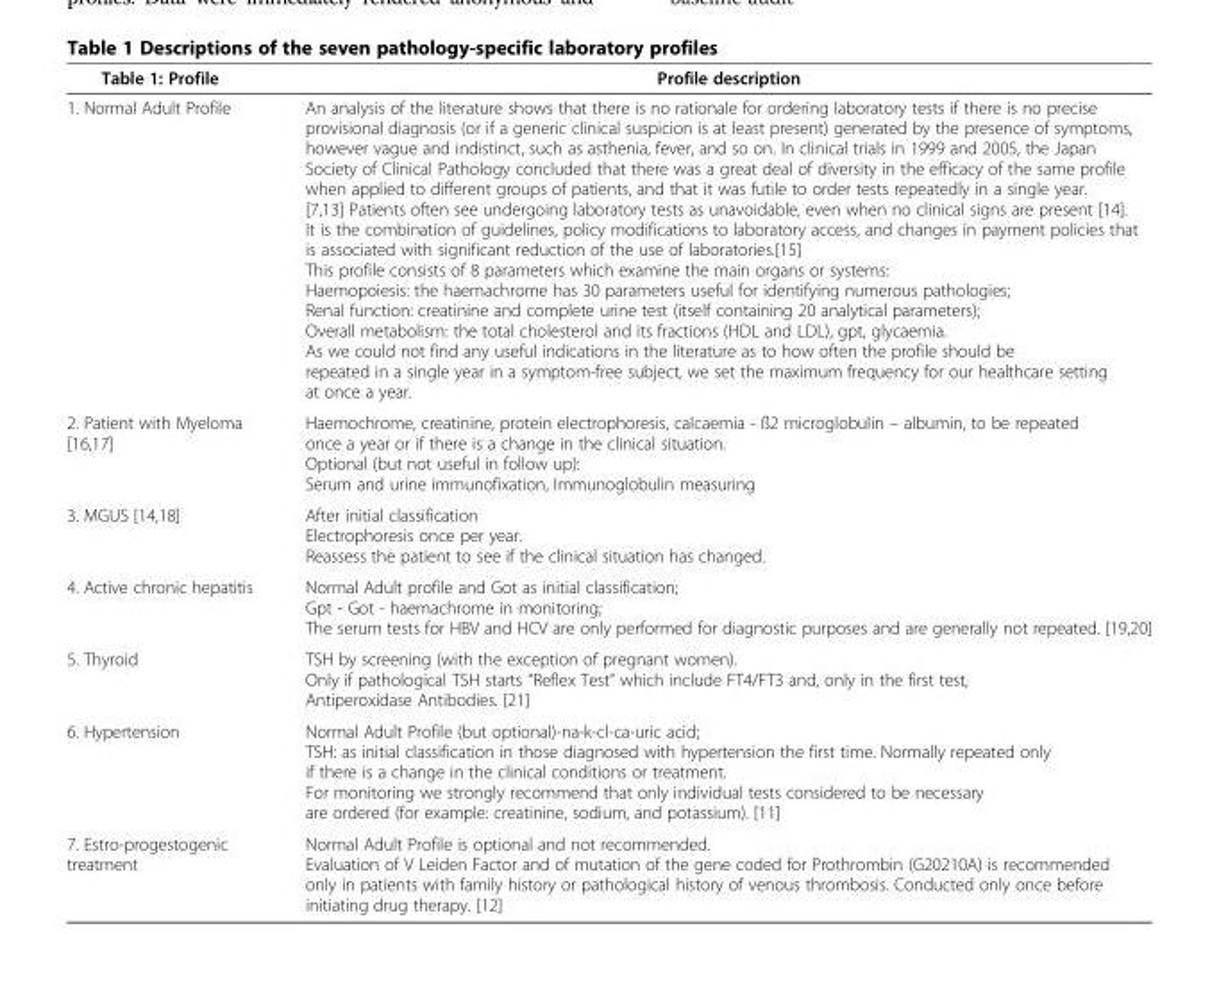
<table><thead><tr><td>Table 1: Profile</td><td>Profile description</td></tr></thead><tbody><tr><td>1. Normal Adult Profile</td><td>An analysis of the literature shows that there is no rationale for ordering laboratory tests if there is no precise provisional diagnosis (or if a generic clinical suspicion is at least present) generated by the presence of symptoms, however vague and indistinct, such as asthenia, fever, and so on. In clinical trials in 1999 and 2005, the Japan Society of Clinical Pathology concluded that there was a great deal of diversity in the efficacy of the same profile when applied to different groups of patients, and that it was futile to order tests repeatedly in a single year. [7,13] Patients often see undergoing laboratory tests as unavoidable, even when no clinical signs are present [14]. It is the combination of guidelines, policy modifications to laboratory access, and changes in payment policies that is associated with significant reduction of the use of laboratories.[15] This profile consists of 8 parameters which examine the main organs or systems: Haemopoiesis: the haemachrome has 30 parameters useful for identifying numerous pathologies; Renal function: creatinine and complete urine test (itself containing 20 analytical parameters); Overall metabolism: the total cholesterol and its fractions (HDL and LDL), gpt, glycaemia. As we could not find any useful indications in the literature as to how often the profile should be repeated in a single year in a symptom-free subject, we set the maximum frequency for our healthcare setting at once a year.</td></tr><tr><td>2. Patient with Myeloma [16,17]</td><td>Haemochrome, creatinine, protein electrophoresis, calcaemia - ß2 microglobulin – albumin, to be repeated once a year or if there is a change in the clinical situation. Optional (but not useful in follow up): Serum and urine immunofixation, Immunoglobulin measuring</td></tr><tr><td>3. MGUS [14,18]</td><td>After initial classification Electrophoresis once per year. Reassess the patient to see if the clinical situation has changed.</td></tr><tr><td>4. Active chronic hepatitis</td><td>Normal Adult profile and Got as initial classification; Gpt - Got - haemachrome in monitoring; The serum tests for HBV and HCV are only performed for diagnostic purposes and are generally not repeated. [19,20]</td></tr><tr><td>5. Thyroid</td><td>TSH by screening (with the exception of pregnant women). Only if pathological TSH starts “Reflex Test” which include FT4/FT3 and, only in the first test, Antiperoxidase Antibodies. [21]</td></tr><tr><td>6. Hypertension</td><td>Normal Adult Profile (but optional)-na-k-cl-ca-uric acid; TSH: as initial classification in those diagnosed with hypertension the first time. Normally repeated only if there is a change in the clinical conditions or treatment. For monitoring we strongly recommend that only individual tests considered to be necessary are ordered (for example: creatinine, sodium, and potassium). [11]</td></tr><tr><td>7. Estro-progestogenic treatment</td><td>Normal Adult Profile is optional and not recommended. Evaluation of V Leiden Factor and of mutation of the gene coded for Prothrombin (G20210A) is recommended only in patients with family history or pathological history of venous thrombosis. Conducted only once before initiating drug therapy. [12]</td></tr></tbody></table>